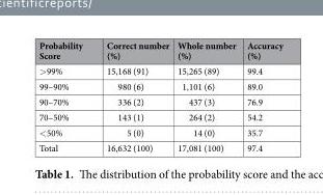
<table><thead><tr><td>Probability Score</td><td>Correct number (%)</td><td>Whole number (%)</td><td>Accuracy (%)</td></tr></thead><tbody><tr><td>&gt;99%</td><td>15,168 (91)</td><td>15,265 (89)</td><td>99.4</td></tr><tr><td>99–90%</td><td>980 (6)</td><td>1,101 (6)</td><td>89.0</td></tr><tr><td>90–70%</td><td>336 (2)</td><td>437 (3)</td><td>76.9</td></tr><tr><td>70–50%</td><td>143 (1)</td><td>264 (2)</td><td>54.2</td></tr><tr><td>&lt;50%</td><td>5 (0)</td><td>14 (0)</td><td>35.7</td></tr><tr><td>Total</td><td>16,632 (100)</td><td>17,081 (100)</td><td>97.4</td></tr></tbody></table>